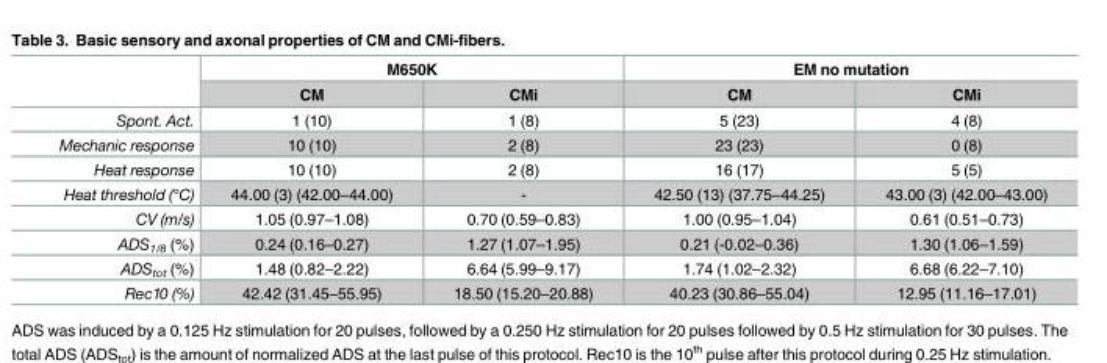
<table><thead><tr><td rowspan="2"></td><td colspan="2">M650K</td><td colspan="2">EM no mutation</td></tr><tr><td>CM</td><td>CMi</td><td>CM</td><td>CMi</td></tr></thead><tbody><tr><td>Spont. Act.</td><td>1 (10)</td><td>1 (8)</td><td>5 (23)</td><td>4 (8)</td></tr><tr><td>Mechanic response</td><td>10 (10)</td><td>2 (8)</td><td>23 (23)</td><td>0 (8)</td></tr><tr><td>Heat response</td><td>10 (10)</td><td>2 (8)</td><td>16 (17)</td><td>5 (5)</td></tr><tr><td>Heat threshold (°C)</td><td>44.00 (3) (42.00–44.00)</td><td>-</td><td>42.50 (13) (37.75–44.25)</td><td>43.00 (3) (42.00–43.00)</td></tr><tr><td>CV (m/s)</td><td>1.05 (0.97–1.08)</td><td>0.70 (0.59–0.83)</td><td>1.00 (0.95–1.04)</td><td>0.61 (0.51–0.73)</td></tr><tr><td>ADS<sub>1/8</sub> (%)</td><td>0.24 (0.16–0.27)</td><td>1.27 (1.07–1.95)</td><td>0.21 (-0.02–0.36)</td><td>1.30 (1.06–1.59)</td></tr><tr><td>ADS<sub>tot</sub> (%)</td><td>1.48 (0.82–2.22)</td><td>6.64 (5.99–9.17)</td><td>1.74 (1.02–2.32)</td><td>6.68 (6.22–7.10)</td></tr><tr><td>Rec10 (%)</td><td>42.42 (31.45–55.95)</td><td>18.50 (15.20–20.88)</td><td>40.23 (30.86–55.04)</td><td>12.95 (11.16–17.01)</td></tr></tbody></table>